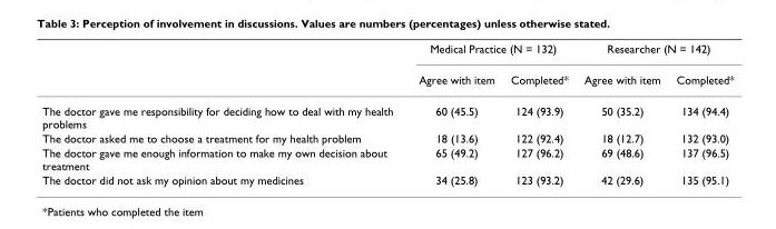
<table><thead><tr><td rowspan="2"></td><td colspan="2">Medical Practice (N = 132)</td><td colspan="2">Researcher (N = 142)</td></tr><tr><td>Agree with item</td><td>Completed*</td><td>Agree with item</td><td>Completed*</td></tr></thead><tbody><tr><td>The doctor gave me responsibility for deciding how to deal with my health problems</td><td>60 (45.5)</td><td>124 (93.9)</td><td>50 (35.2)</td><td>134 (94.4)</td></tr><tr><td>The doctor asked me to choose a treatment for my health problem</td><td>18 (13.6)</td><td>122 (92.4)</td><td>18 (12.7)</td><td>132 (93.0)</td></tr><tr><td>The doctor gave me enough information to make my own decision about treatment</td><td>65 (49.2)</td><td>127 (96.2)</td><td>69 (48.6)</td><td>137 (96.5)</td></tr><tr><td>The doctor did not ask my opinion about my medicines</td><td>34 (25.8)</td><td>123 (93.2)</td><td>42 (29.6)</td><td>135 (95.1)</td></tr></tbody></table>